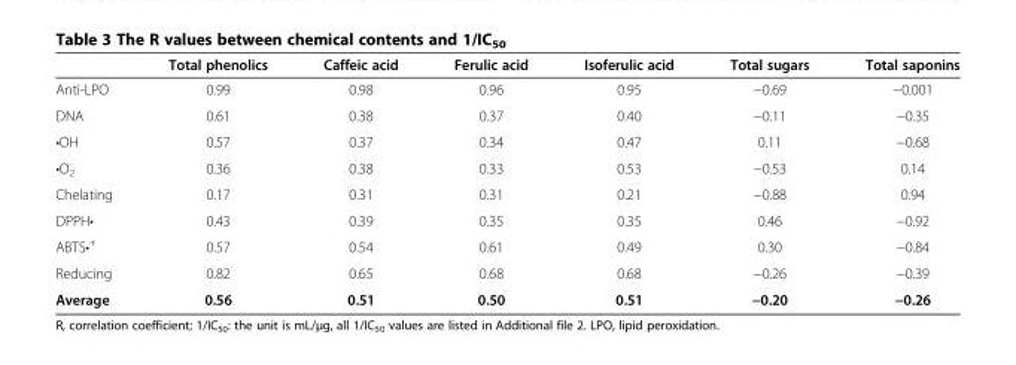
<table><thead><tr><td></td><td>Total phenolics</td><td>Caffeic acid</td><td>Ferulic acid</td><td>Isoferulic acid</td><td>Total sugars</td><td>Total saponins</td></tr></thead><tbody><tr><td>Anti-LPO</td><td>0.99</td><td>0.98</td><td>0.96</td><td>0.95</td><td>−0.69</td><td>−0.001</td></tr><tr><td>DNA</td><td>0.61</td><td>0.38</td><td>0.37</td><td>0.40</td><td>−0.11</td><td>−0.35</td></tr><tr><td>•OH</td><td>0.57</td><td>0.37</td><td>0.34</td><td>0.47</td><td>0.11</td><td>−0.68</td></tr><tr><td>•O2 -</td><td>0.36</td><td>0.38</td><td>0.33</td><td>0.53</td><td>−0.53</td><td>0.14</td></tr><tr><td>Chelating</td><td>0.17</td><td>0.31</td><td>0.31</td><td>0.21</td><td>−0.88</td><td>0.94</td></tr><tr><td>DPPH•</td><td>0.43</td><td>0.39</td><td>0.35</td><td>0.35</td><td>0.46</td><td>−0.92</td></tr><tr><td>ABTS•+</td><td>0.57</td><td>0.54</td><td>0.61</td><td>0.49</td><td>0.30</td><td>−0.84</td></tr><tr><td>Reducing</td><td>0.82</td><td>0.65</td><td>0.68</td><td>0.68</td><td>−0.26</td><td>−0.39</td></tr><tr><td>Average</td><td>0.56</td><td>0.51</td><td>0.50</td><td>0.51</td><td>−0.20</td><td>−0.26</td></tr></tbody></table>